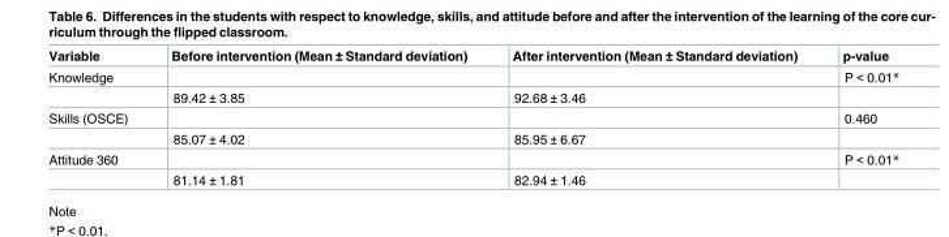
<table><thead><tr><td>Variable</td><td>Before intervention (Mean ± Standard deviation)</td><td>After intervention (Mean ± Standard deviation)</td><td>p-value</td></tr></thead><tbody><tr><td rowspan="2">Knowledge</td><td></td><td></td><td>P &lt; 0.01*</td></tr><tr><td>89.42 ± 3.85</td><td>92.68 ± 3.46</td><td></td></tr><tr><td rowspan="2">Skills (OSCE)</td><td></td><td></td><td>0.460</td></tr><tr><td>85.07 ± 4.02</td><td>85.95 ± 6.67</td><td></td></tr><tr><td rowspan="2">Attitude 360</td><td></td><td></td><td>P &lt; 0.01*</td></tr><tr><td>81.14 ± 1.81</td><td>82.94 ± 1.46</td><td></td></tr></tbody></table>